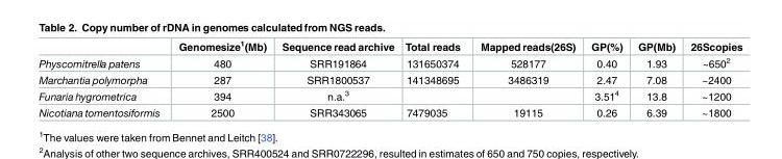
<table><thead><tr><td></td><td>Genomesize<sup>1</sup>(Mb)</td><td>Sequence read archive</td><td>Total reads</td><td>Mapped reads(26S)</td><td>GP(%)</td><td>GP(Mb)</td><td>26Scopies</td></tr></thead><tbody><tr><td>Physcomitrella patens</td><td>480</td><td>SRR191864</td><td>131650374</td><td>528177</td><td>0.40</td><td>1.93</td><td>~650<sup>2</sup></td></tr><tr><td>Marchantia polymorpha</td><td>287</td><td>SRR1800537</td><td>141348695</td><td>3486319</td><td>2.47</td><td>7.08</td><td>~2400</td></tr><tr><td>Funaria hygrometrica</td><td>394</td><td>n.a.<sup>3</sup></td><td></td><td></td><td>3.51<sup>4</sup></td><td>13.8</td><td>~1200</td></tr><tr><td>Nicotiana tomentosiformis</td><td>2500</td><td>SRR343065</td><td>7479035</td><td>19115</td><td>0.26</td><td>6.39</td><td>~1800</td></tr></tbody></table>